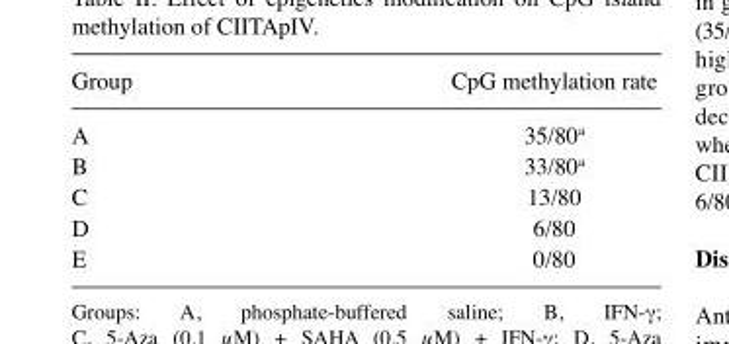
<table><thead><tr><td>Group</td><td>CpG methylation rate</td></tr></thead><tbody><tr><td>A</td><td>35/80<sup>a</sup></td></tr><tr><td>B</td><td>33/80<sup>a</sup></td></tr><tr><td>C</td><td>13/80</td></tr><tr><td>D</td><td>6/80</td></tr><tr><td>E</td><td>0/80</td></tr></tbody></table>